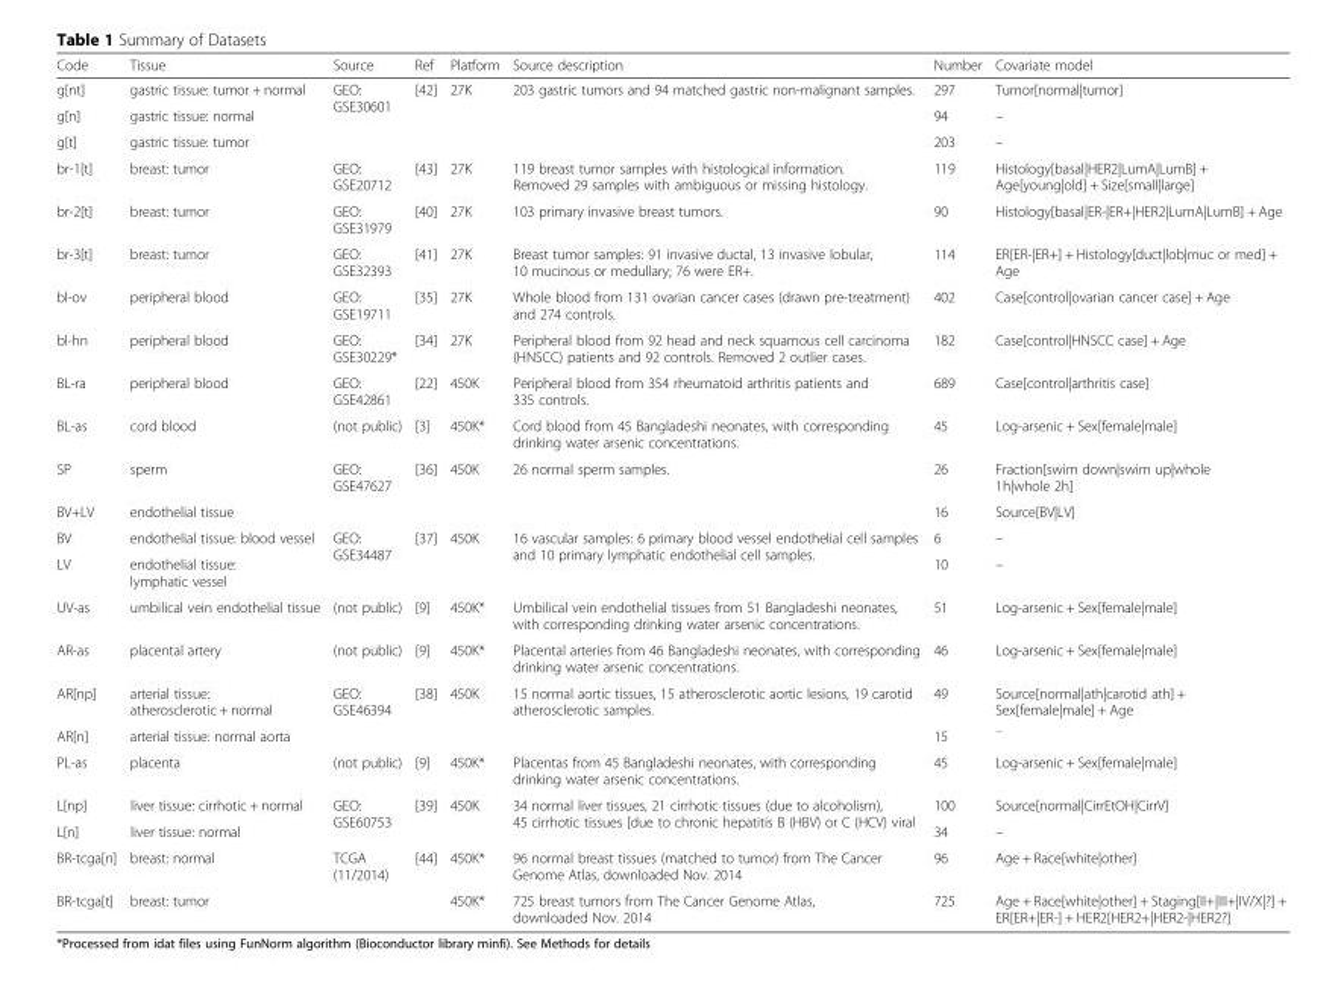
<table><thead><tr><td>Code</td><td>Tissue</td><td>Source</td><td>Ref</td><td>Platform</td><td>Source description</td><td>Number</td><td>Covariate model</td></tr></thead><tbody><tr><td>g[nt]</td><td>gastric tissue: tumor + normal</td><td rowspan="3">GEO: GSE30601</td><td rowspan="3">[42]</td><td rowspan="3">27K</td><td rowspan="3">203 gastric tumors and 94 matched gastric non-malignant samples.</td><td>297</td><td>Tumor[normal|tumor]</td></tr><tr><td>g[n]</td><td>gastric tissue: normal</td><td>94</td><td>–</td></tr><tr><td>g[t]</td><td>gastric tissue: tumor</td><td>203</td><td>–</td></tr><tr><td>br-1[t]</td><td>breast: tumor</td><td>GEO: GSE20712</td><td>[43]</td><td>27K</td><td>119 breast tumor samples with histological information. Removed 29 samples with ambiguous or missing histology.</td><td>119</td><td>Histology[basal|HER2|LumA|LumB] + Age[young|old] + Size[small|large]</td></tr><tr><td>br-2[t]</td><td>breast: tumor</td><td>GEO: GSE31979</td><td>[40]</td><td>27K</td><td>103 primary invasive breast tumors.</td><td>90</td><td>Histology[basal|ER-|ER+|HER2|LumA|LumB] + Age</td></tr><tr><td>br-3[t]</td><td>breast: tumor</td><td>GEO: GSE32393</td><td>[41]</td><td>27K</td><td>Breast tumor samples: 91 invasive ductal, 13 invasive lobular, 10 mucinous or medullary; 76 were ER+.</td><td>114</td><td>ER[ER-|ER+] + Histology[duct|lob|muc or med] + Age</td></tr><tr><td>bl-ov</td><td>peripheral blood</td><td>GEO: GSE19711</td><td>[35]</td><td>27K</td><td>Whole blood from 131 ovarian cancer cases (drawn pre-treatment) and 274 controls.</td><td>402</td><td>Case[control|ovarian cancer case] + Age</td></tr><tr><td>bl-hn</td><td>peripheral blood</td><td>GEO: GSE30229*</td><td>[34]</td><td>27K</td><td>Peripheral blood from 92 head and neck squamous cell carcinoma (HNSCC) patients and 92 controls. Removed 2 outlier cases.</td><td>182</td><td>Case[control|HNSCC case] + Age</td></tr><tr><td>BL-ra</td><td>peripheral blood</td><td>GEO: GSE42861</td><td>[22]</td><td>450K</td><td>Peripheral blood from 354 rheumatoid arthritis patients and 335 controls.</td><td>689</td><td>Case[control|arthritis case]</td></tr><tr><td>BL-as</td><td>cord blood</td><td>(not public)</td><td>[3]</td><td>450K*</td><td>Cord blood from 45 Bangladeshi neonates, with corresponding drinking water arsenic concentrations.</td><td>45</td><td>Log-arsenic + Sex[female|male]</td></tr><tr><td>SP</td><td>sperm</td><td rowspan="2">GEO: GSE47627</td><td rowspan="2">[36]</td><td rowspan="2">450K</td><td rowspan="2">26 normal sperm samples.</td><td>26</td><td>Fraction[swim down|swim up|whole 1h|whole 2h]</td></tr><tr><td>BV+LV</td><td>endothelial tissue</td><td>16</td><td>Source[BV|LV]</td></tr><tr><td>BV</td><td>endothelial tissue: blood vessel</td><td rowspan="2">GEO: GSE34487</td><td rowspan="2">[37]</td><td rowspan="2">450K</td><td rowspan="2">16 vascular samples: 6 primary blood vessel endothelial cell samples and 10 primary lymphatic endothelial cell samples.</td><td>6</td><td>–</td></tr><tr><td>LV</td><td>endothelial tissue: lymphatic vessel</td><td>10</td><td>–</td></tr><tr><td>UV-as</td><td>umbilical vein endothelial tissue</td><td>(not public)</td><td>[9]</td><td>450K*</td><td>Umbilical vein endothelial tissues from 51 Bangladeshi neonates, with corresponding drinking water arsenic concentrations.</td><td>51</td><td>Log-arsenic + Sex[female|male]</td></tr><tr><td>AR-as</td><td>placental artery</td><td>(not public)</td><td>[9]</td><td>450K*</td><td>Placental arteries from 46 Bangladeshi neonates, with corresponding drinking water arsenic concentrations.</td><td>46</td><td>Log-arsenic + Sex[female|male]</td></tr><tr><td>AR[np]</td><td>arterial tissue: atherosclerotic + normal</td><td rowspan="2">GEO: GSE46394</td><td rowspan="2">[38]</td><td rowspan="2">450K</td><td rowspan="2">15 normal aortic tissues, 15 atherosclerotic aortic lesions, 19 carotid atherosclerotic samples.</td><td>49</td><td>Source[normal|ath|carotid ath] + Sex[female|male] + Age</td></tr><tr><td>AR[n]</td><td>arterial tissue: normal aorta</td><td>15</td><td><sup>−</sup></td></tr><tr><td>PL-as</td><td>placenta</td><td>(not public)</td><td>[9]</td><td>450K*</td><td>Placentas from 45 Bangladeshi neonates, with corresponding drinking water arsenic concentrations.</td><td>45</td><td>Log-arsenic + Sex[female|male]</td></tr><tr><td>L[np]</td><td>liver tissue: cirrhotic + normal</td><td rowspan="2">GEO: GSE60753</td><td rowspan="2">[39]</td><td rowspan="2">450K</td><td rowspan="2">34 normal liver tissues, 21 cirrhotic tissues (due to alcoholism), 45 cirrhotic tissues [due to chronic hepatitis B (HBV) or C (HCV) viral</td><td>100</td><td>Source[normal|CirrEtOH|CirrV]</td></tr><tr><td>L[n]</td><td>liver tissue: normal</td><td>34</td><td>–</td></tr><tr><td>BR-tcga[n]</td><td>breast: normal</td><td rowspan="2">TCGA (11/2014)</td><td rowspan="2">[44]</td><td>450K*</td><td>96 normal breast tissues (matched to tumor) from The Cancer Genome Atlas, downloaded Nov. 2014</td><td>96</td><td>Age + Race[white|other]</td></tr><tr><td>BR-tcga[t]</td><td>breast: tumor</td><td>450K*</td><td>725 breast tumors from The Cancer Genome Atlas, downloaded Nov. 2014</td><td>725</td><td>Age + Race[white|other] + Staging[II+|III+|IV/X|?] + ER[ER+|ER-] + HER2[HER2+|HER2-|HER2?]</td></tr></tbody></table>